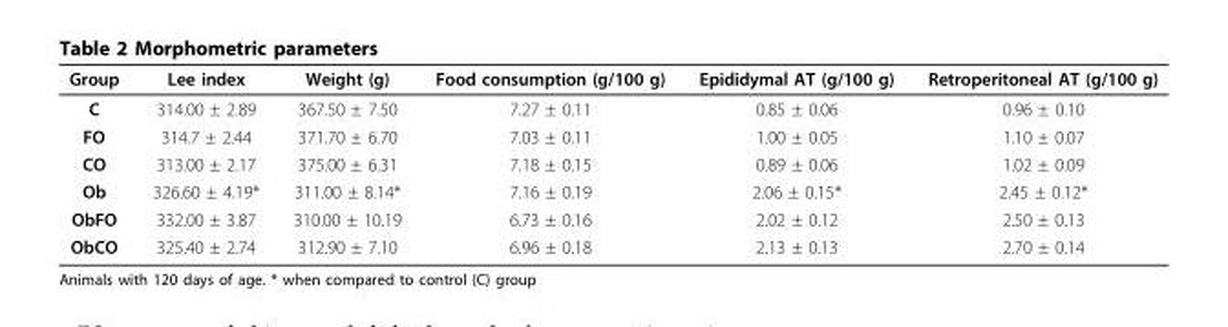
<table><thead><tr><td>Group</td><td>Lee index</td><td>Weight (g)</td><td>Food consumption (g/100 g)</td><td>Epididymal AT (g/100 g)</td><td>Retroperitoneal AT (g/100 g)</td></tr></thead><tbody><tr><td>C</td><td>314.00 ± 2.89</td><td>367.50 ± 7.50</td><td>7.27 ± 0.11</td><td>0.85 ± 0.06</td><td>0.96 ± 0.10</td></tr><tr><td>FO</td><td>314.7 ± 2.44</td><td>371.70 ± 6.70</td><td>7.03 ± 0.11</td><td>1.00 ± 0.05</td><td>1.10 ± 0.07</td></tr><tr><td>CO</td><td>313.00 ± 2.17</td><td>375.00 ± 6.31</td><td>7.18 ± 0.15</td><td>0.89 ± 0.06</td><td>1.02 ± 0.09</td></tr><tr><td>Ob</td><td>326.60 ± 4.19*</td><td>311.00 ± 8.14*</td><td>7.16 ± 0.19</td><td>2.06 ± 0.15*</td><td>2.45 ± 0.12*</td></tr><tr><td>ObFO</td><td>332.00 ± 3.87</td><td>310.00 ± 10.19</td><td>6.73 ± 0.16</td><td>2.02 ± 0.12</td><td>2.50 ± 0.13</td></tr><tr><td>ObCO</td><td>325.40 ± 2.74</td><td>312.90 ± 7.10</td><td>6.96 ± 0.18</td><td>2.13 ± 0.13</td><td>2.70 ± 0.14</td></tr></tbody></table>